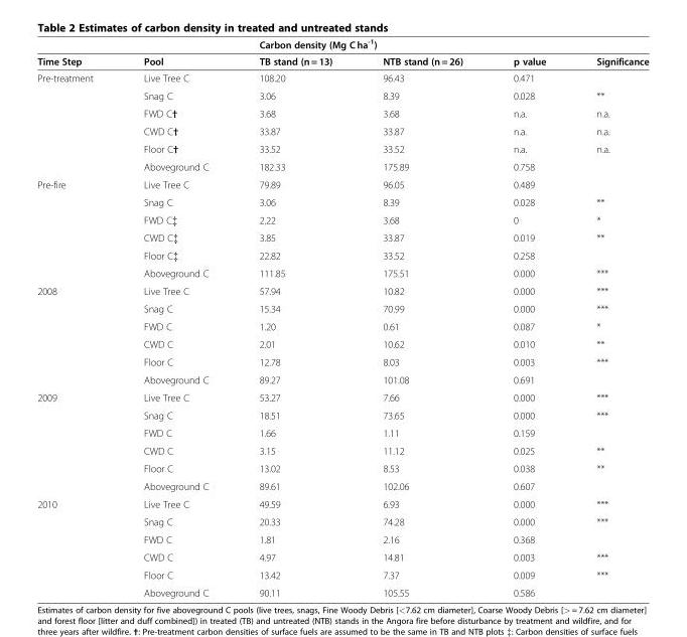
<table><thead><tr><td rowspan="2">Time Step</td><td rowspan="2">Pool</td><td colspan="4">Carbon density (Mg C ha<sup>-1</sup>)</td></tr><tr><td>TB stand (n = 13)</td><td>NTB stand (n = 26)</td><td>p value</td><td>Significance</td></tr></thead><tbody><tr><td rowspan="6">Pre-treatment</td><td>Live Tree C</td><td>108.20</td><td>96.43</td><td>0.471</td><td></td></tr><tr><td>Snag C</td><td>3.06</td><td>8.39</td><td>0.028</td><td>**</td></tr><tr><td>FWD C†</td><td>3.68</td><td>3.68</td><td>n.a.</td><td>n.a.</td></tr><tr><td>CWD C†</td><td>33.87</td><td>33.87</td><td>n.a.</td><td>n.a.</td></tr><tr><td>Floor C†</td><td>33.52</td><td>33.52</td><td>n.a.</td><td>n.a.</td></tr><tr><td>Aboveground C</td><td>182.33</td><td>175.89</td><td>0.758</td><td></td></tr><tr><td rowspan="6">Pre-fire</td><td>Live Tree C</td><td>79.89</td><td>96.05</td><td>0.489</td><td></td></tr><tr><td>Snag C</td><td>3.06</td><td>8.39</td><td>0.028</td><td>**</td></tr><tr><td>FWD C‡</td><td>2.22</td><td>3.68</td><td>0</td><td>*</td></tr><tr><td>CWD C‡</td><td>3.85</td><td>33.87</td><td>0.019</td><td>**</td></tr><tr><td>Floor C‡</td><td>22.82</td><td>33.52</td><td>0.258</td><td></td></tr><tr><td>Aboveground C</td><td>111.85</td><td>175.51</td><td>0.000</td><td>***</td></tr><tr><td rowspan="6">2008</td><td>Live Tree C</td><td>57.94</td><td>10.82</td><td>0.000</td><td>***</td></tr><tr><td>Snag C</td><td>15.34</td><td>70.99</td><td>0.000</td><td>***</td></tr><tr><td>FWD C</td><td>1.20</td><td>0.61</td><td>0.087</td><td>*</td></tr><tr><td>CWD C</td><td>2.01</td><td>10.62</td><td>0.010</td><td>**</td></tr><tr><td>Floor C</td><td>12.78</td><td>8.03</td><td>0.003</td><td>***</td></tr><tr><td>Aboveground C</td><td>89.27</td><td>101.08</td><td>0.691</td><td></td></tr><tr><td rowspan="6">2009</td><td>Live Tree C</td><td>53.27</td><td>7.66</td><td>0.000</td><td>***</td></tr><tr><td>Snag C</td><td>18.51</td><td>73.65</td><td>0.000</td><td>***</td></tr><tr><td>FWD C</td><td>1.66</td><td>1.11</td><td>0.159</td><td></td></tr><tr><td>CWD C</td><td>3.15</td><td>11.12</td><td>0.025</td><td>**</td></tr><tr><td>Floor C</td><td>13.02</td><td>8.53</td><td>0.038</td><td>**</td></tr><tr><td>Aboveground C</td><td>89.61</td><td>102.06</td><td>0.607</td><td></td></tr><tr><td rowspan="6">2010</td><td>Live Tree C</td><td>49.59</td><td>6.93</td><td>0.000</td><td>***</td></tr><tr><td>Snag C</td><td>20.33</td><td>74.28</td><td>0.000</td><td>***</td></tr><tr><td>FWD C</td><td>1.81</td><td>2.16</td><td>0.368</td><td></td></tr><tr><td>CWD C</td><td>4.97</td><td>14.81</td><td>0.003</td><td>***</td></tr><tr><td>Floor C</td><td>13.42</td><td>7.37</td><td>0.009</td><td>***</td></tr><tr><td>Aboveground C</td><td>90.11</td><td>105.55</td><td>0.586</td><td></td></tr></tbody></table>